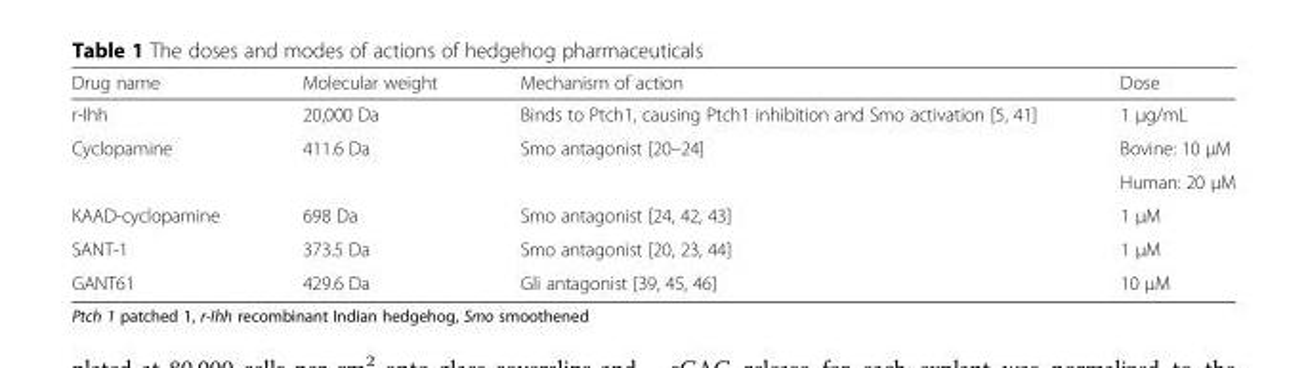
<table><thead><tr><td>Drug name</td><td>Molecular weight</td><td>Mechanism of action</td><td>Dose</td></tr></thead><tbody><tr><td>r-Ihh</td><td>20,000 Da</td><td>Binds to Ptch1, causing Ptch1 inhibition and Smo activation [5, 41]</td><td>1 μg/mL</td></tr><tr><td rowspan="2">Cyclopamine</td><td rowspan="2">411.6 Da</td><td rowspan="2">Smo antagonist [20–24]</td><td>Bovine: 10 μM</td></tr><tr><td>Human: 20 μM</td></tr><tr><td>KAAD-cyclopamine</td><td>698 Da</td><td>Smo antagonist [24, 42, 43]</td><td>1 μM</td></tr><tr><td>SANT-1</td><td>373.5 Da</td><td>Smo antagonist [20, 23, 44]</td><td>1 μM</td></tr><tr><td>GANT61</td><td>429.6 Da</td><td>Gli antagonist [39, 45, 46]</td><td>10 μM</td></tr></tbody></table>